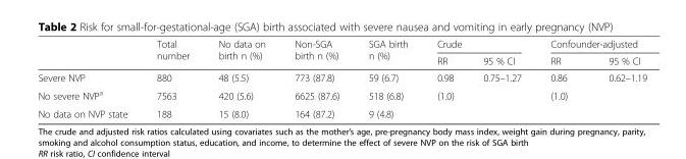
<table><thead><tr><td rowspan="2"></td><td rowspan="2">Total number</td><td rowspan="2">No data on birth n (%)</td><td rowspan="2">Non-SGA birth n (%)</td><td rowspan="2">SGA birth n (%)</td><td colspan="2">Crude</td><td colspan="2">Confounder-adjusted</td></tr><tr><td>RR</td><td>95 % CI</td><td>RR</td><td>95 % CI</td></tr></thead><tbody><tr><td>Severe NVP</td><td>880</td><td>48 (5.5)</td><td>773 (87.8)</td><td>59 (6.7)</td><td>0.98</td><td>0.75–1.27</td><td>0.86</td><td>0.62–1.19</td></tr><tr><td>No severe NVP<sup>a</sup></td><td>7563</td><td>420 (5.6)</td><td>6625 (87.6)</td><td>518 (6.8)</td><td>(1.0)</td><td></td><td>(1.0)</td><td></td></tr><tr><td>No data on NVP state</td><td>188</td><td>15 (8.0)</td><td>164 (87.2)</td><td>9 (4.8)</td><td></td><td></td><td></td><td></td></tr></tbody></table>